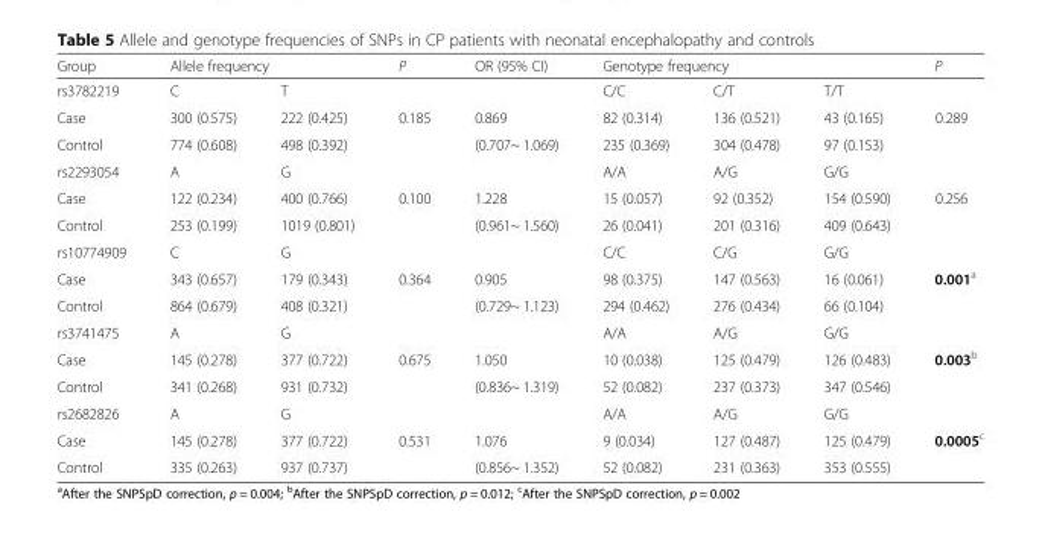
<table><thead><tr><td rowspan="2">Group rs3782219</td><td colspan="2">Allele frequency</td><td rowspan="2">P</td><td rowspan="2">OR (95% CI)</td><td colspan="3">Genotype frequency</td><td rowspan="2">P</td></tr><tr><td>C</td><td>T</td><td>C/C</td><td>C/T</td><td>T/T</td></tr></thead><tbody><tr><td>Case</td><td>300 (0.575)</td><td>222 (0.425)</td><td>0.185</td><td>0.869</td><td>82 (0.314)</td><td>136 (0.521)</td><td>43 (0.165)</td><td>0.289</td></tr><tr><td>Control</td><td>774 (0.608)</td><td>498 (0.392)</td><td></td><td>(0.707~ 1.069)</td><td>235 (0.369)</td><td>304 (0.478)</td><td>97 (0.153)</td><td></td></tr><tr><td>rs2293054</td><td>A</td><td>G</td><td></td><td></td><td>A/A</td><td>A/G</td><td>G/G</td><td></td></tr><tr><td>Case</td><td>122 (0.234)</td><td>400 (0.766)</td><td>0.100</td><td>1.228</td><td>15 (0.057)</td><td>92 (0.352)</td><td>154 (0.590)</td><td>0.256</td></tr><tr><td>Control</td><td>253 (0.199)</td><td>1019 (0.801)</td><td></td><td>(0.961~ 1.560)</td><td>26 (0.041)</td><td>201 (0.316)</td><td>409 (0.643)</td><td></td></tr><tr><td>rs10774909</td><td>C</td><td>G</td><td></td><td></td><td>C/C</td><td>C/G</td><td>G/G</td><td></td></tr><tr><td>Case</td><td>343 (0.657)</td><td>179 (0.343)</td><td>0.364</td><td>0.905</td><td>98 (0.375)</td><td>147 (0.563)</td><td>16 (0.061)</td><td>0.001<sup>a</sup></td></tr><tr><td>Control</td><td>864 (0.679)</td><td>408 (0.321)</td><td></td><td>(0.729~ 1.123)</td><td>294 (0.462)</td><td>276 (0.434)</td><td>66 (0.104)</td><td></td></tr><tr><td>rs3741475</td><td>A</td><td>G</td><td></td><td></td><td>A/A</td><td>A/G</td><td>G/G</td><td></td></tr><tr><td>Case</td><td>145 (0.278)</td><td>377 (0.722)</td><td>0.675</td><td>1.050</td><td>10 (0.038)</td><td>125 (0.479)</td><td>126 (0.483)</td><td>0.003<sup>b</sup></td></tr><tr><td>Control</td><td>341 (0.268)</td><td>931 (0.732)</td><td></td><td>(0.836~ 1.319)</td><td>52 (0.082)</td><td>237 (0.373)</td><td>347 (0.546)</td><td></td></tr><tr><td>rs2682826</td><td>A</td><td>G</td><td></td><td></td><td>A/A</td><td>A/G</td><td>G/G</td><td></td></tr><tr><td>Case</td><td>145 (0.278)</td><td>377 (0.722)</td><td>0.531</td><td>1.076</td><td>9 (0.034)</td><td>127 (0.487)</td><td>125 (0.479)</td><td>0.0005<sup>c</sup></td></tr><tr><td>Control</td><td>335 (0.263)</td><td>937 (0.737)</td><td></td><td>(0.856~ 1.352)</td><td>52 (0.082)</td><td>231 (0.363)</td><td>353 (0.555)</td><td></td></tr></tbody></table>